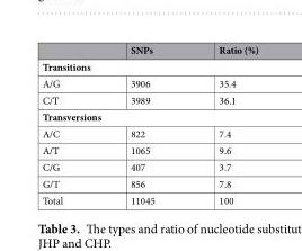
<table><thead><tr><td></td><td>SNPs</td><td>Ratio (%)</td></tr></thead><tbody><tr><td colspan="3">Transitions</td></tr><tr><td>A/G</td><td>3906</td><td>35.4</td></tr><tr><td>C/T</td><td>3989</td><td>36.1</td></tr><tr><td colspan="3">Transversions</td></tr><tr><td>A/C</td><td>822</td><td>7.4</td></tr><tr><td>A/T</td><td>1065</td><td>9.6</td></tr><tr><td>C/G</td><td>407</td><td>3.7</td></tr><tr><td>G/T</td><td>856</td><td>7.8</td></tr><tr><td>Total</td><td>11045</td><td>100</td></tr></tbody></table>